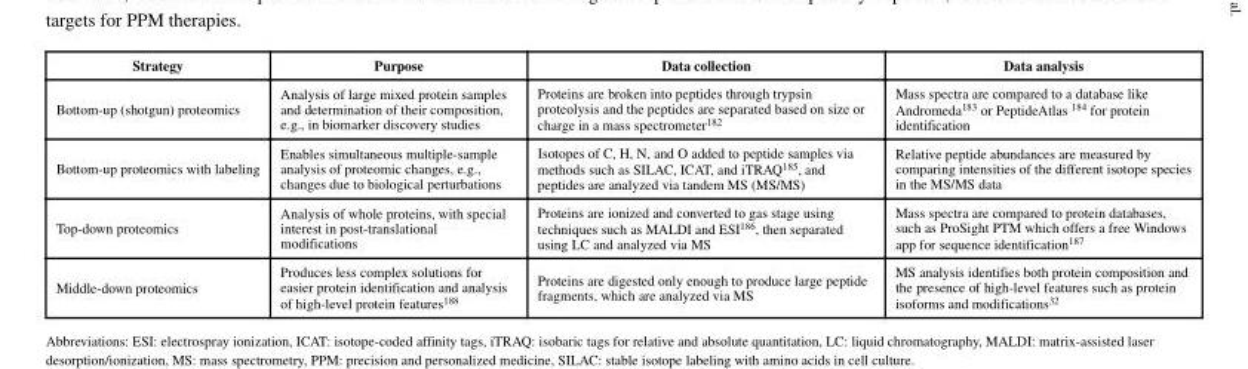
<table><thead><tr><td>Strategy</td><td>Purpose</td><td>Data collection</td><td>Data analysis</td></tr></thead><tbody><tr><td>Bottom-up (shotgun) proteomics</td><td>Analysis of large mixed protein samples and determination of their composition, e.g., in biomarker discovery studies</td><td>Proteins are broken into peptides through trypsin proteolysis and the peptides are separated based on size or charge in a mass spectrometer<sup>182</sup></td><td>Mass spectra are compared to a database like Andromeda<sup>183</sup> or PeptideAtlas <sup>184</sup> for protein identification</td></tr><tr><td>Bottom-up proteomics with labeling</td><td>Enables simultaneous multiple-sample analysis of proteomic changes, e.g., changes due to biological perturbations</td><td>Isotopes of C, H, N, and O added to peptide samples via methods such as SILAC, ICAT, and iTRAQ<sup>185</sup>, and peptides are analyzed via tandem MS (MS/MS)</td><td>Relative peptide abundances are measured by comparing intensities of the different isotope species in the MS/MS data</td></tr><tr><td>Top-down proteomics</td><td>Analysis of whole proteins, with special interest in post-translational modifications</td><td>Proteins are ionized and converted to gas stage using techniques such as MALDI and ESI<sup>186</sup>, then separated using LC and analyzed via MS</td><td>Mass spectra are compared to protein databases, such as ProSight PTM which offers a free Windows app for sequence identification<sup>187</sup></td></tr><tr><td>Middle-down proteomics</td><td>Produces less complex solutions for easier protein identification and analysis of high-level protein features<sup>188</sup></td><td>Proteins are digested only enough to produce large peptide fragments, which are analyzed via MS</td><td>MS analysis identifies both protein composition and the presence of high-level features such as protein isoforms and modifications<sup>32</sup></td></tr></tbody></table>